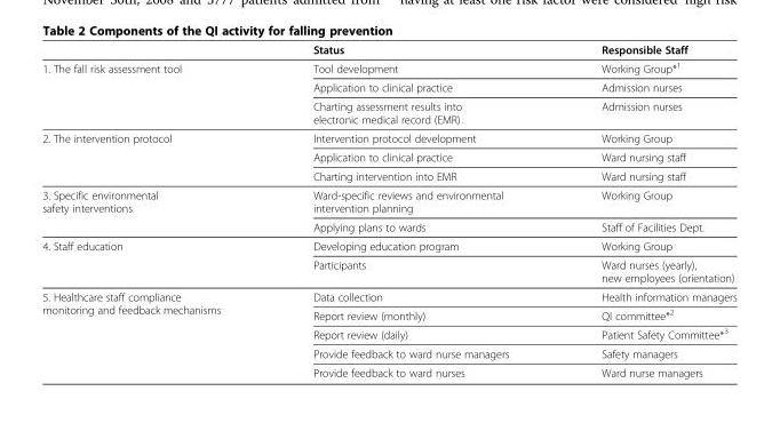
<table><thead><tr><td></td><td>Status</td><td>Responsible Staff</td></tr></thead><tbody><tr><td rowspan="3">1. The fall risk assessment tool</td><td>Tool development</td><td>Working Group*<sup>1</sup></td></tr><tr><td>Application to clinical practice</td><td>Admission nurses</td></tr><tr><td>Charting assessment results into electronic medical record (EMR)</td><td>Admission nurses</td></tr><tr><td rowspan="3">2. The intervention protocol</td><td>Intervention protocol development</td><td>Working Group</td></tr><tr><td>Application to clinical practice</td><td>Ward nursing staff</td></tr><tr><td>Charting intervention into EMR</td><td>Ward nursing staff</td></tr><tr><td rowspan="2">3. Specific environmental safety interventions</td><td>Ward-specific reviews and environmental intervention planning</td><td>Working Group</td></tr><tr><td>Applying plans to wards</td><td>Staff of Facilities Dept.</td></tr><tr><td rowspan="2">4. Staff education</td><td>Developing education program</td><td>Working Group</td></tr><tr><td>Participants</td><td>Ward nurses (yearly), new employees (orientation)</td></tr><tr><td rowspan="5">5. Healthcare staff compliance monitoring and feedback mechanisms</td><td>Data collection</td><td>Health information managers</td></tr><tr><td>Report review (monthly)</td><td>QI committee*<sup>2</sup></td></tr><tr><td>Report review (daily)</td><td>Patient Safety Committee*<sup>3</sup></td></tr><tr><td>Provide feedback to ward nurse managers</td><td>Safety managers</td></tr><tr><td>Provide feedback to ward nurses</td><td>Ward nurse managers</td></tr></tbody></table>